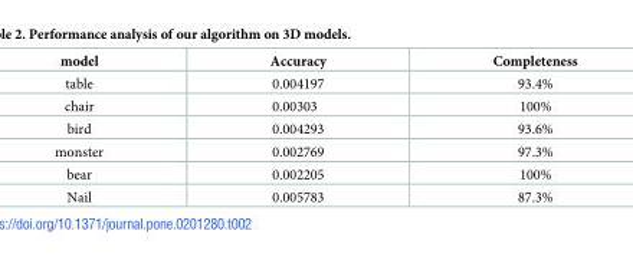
<table><thead><tr><td>model</td><td>Accuracy</td><td>Completeness</td></tr></thead><tbody><tr><td>table</td><td>0.004197</td><td>93.4%</td></tr><tr><td>chair</td><td>0.00303</td><td>100%</td></tr><tr><td>bird</td><td>0.004293</td><td>93.6%</td></tr><tr><td>monster</td><td>0.002769</td><td>97.3%</td></tr><tr><td>bear</td><td>0.002205</td><td>100%</td></tr><tr><td>Nail</td><td>0.005783</td><td>87.3%</td></tr></tbody></table>